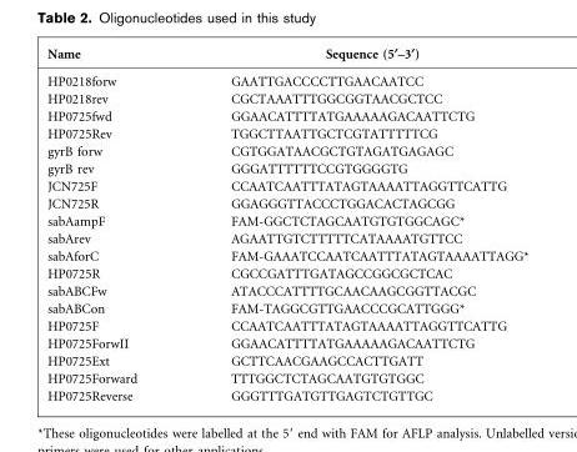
<table><thead><tr><td>Name</td><td>Sequence (5§–3§)</td></tr></thead><tbody><tr><td>HP0218forw</td><td>GAATTGACCCCTTGAACAATCC</td></tr><tr><td>HP0218rev</td><td>CGCTAAATTTGGCGGTAACGCTCC</td></tr><tr><td>HP0725fwd</td><td>GGAACATTTTATGAAAAAGACAATTCTG</td></tr><tr><td>HP0725Rev</td><td>TGGCTTAATTGCTCGTATTTTTCG</td></tr><tr><td>gyrB forw</td><td>CGTGGATAACGCTGTAGATGAGAGC</td></tr><tr><td>gyrB rev</td><td>GGGATTTTTTCCGTGGGGTG</td></tr><tr><td>JCN725F</td><td>CCAATCAATTTATAGTAAAATTAGGTTCATTG</td></tr><tr><td>JCN725R</td><td>GGAGGGTTACCCTGGACACTAGCGG</td></tr><tr><td>sabAampF</td><td>FAM-GGCTCTAGCAATGTGTGGCAGC*</td></tr><tr><td>sabArev</td><td>AGAATTGTCTTTTTCATAAAATGTTCC</td></tr><tr><td>sabAforC</td><td>FAM-GAAATCCAATCAATTTATAGTAAAATTAGG*</td></tr><tr><td>HP0725R</td><td>CGCCGATTTGATAGCCGGCGCTCAC</td></tr><tr><td>sabABCFw</td><td>ATACCCATTTTGCAACAAGCGGTTACGC</td></tr><tr><td>sabABCon</td><td>FAM-TAGGCGTTGAACCCGCATTGGG*</td></tr><tr><td>HP0725F</td><td>CCAATCAATTTATAGTAAAATTAGGTTCATTG</td></tr><tr><td>HP0725ForwII</td><td>GGAACATTTTATGAAAAAGACAATTCTG</td></tr><tr><td>HP0725Ext</td><td>GCTTCAACGAAGCCACTTGATT</td></tr><tr><td>HP0725Forward</td><td>TTTGGCTCTAGCAATGTGTGGC</td></tr><tr><td>HP0725Reverse</td><td>GGGTTTGATGTTGAGTCTGTTGC</td></tr></tbody></table>